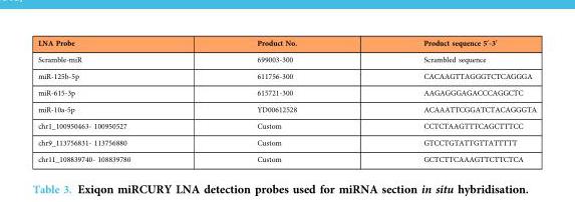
<table><thead><tr><td>LNA Probe</td><td>Product No.</td><td>Product sequence 5′-3′</td></tr></thead><tbody><tr><td>Scramble-miR</td><td>699003-300</td><td>Scrambled sequence</td></tr><tr><td>miR-125b-5p</td><td>611756-300</td><td>CACAAGTTAGGGTCTCAGGGA</td></tr><tr><td>miR-615-3p</td><td>615721-300</td><td>AAGAGGGAGACCCAGGCTC</td></tr><tr><td>miR-10a-5p</td><td>YD00612528</td><td>ACAAATTCGGATCTACAGGGTA</td></tr><tr><td>chr1_100950463- 100950527</td><td>Custom</td><td>CCTCTAAGTTTCAGCTTTCC</td></tr><tr><td>chr9_113756831- 113756880</td><td>Custom</td><td>GTCCTGTATTGTTATTTTT</td></tr><tr><td>chr11_108839740- 108839780</td><td>Custom</td><td>GCTCTTCAAAGTTCTTCTCA</td></tr></tbody></table>